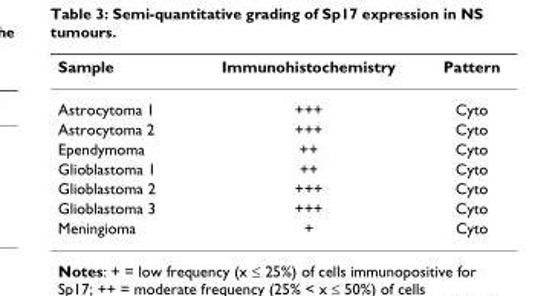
<table><thead><tr><td>Sample</td><td>Immunohistochemistry</td><td>Pattern</td></tr></thead><tbody><tr><td>Astrocytoma 1</td><td>+++</td><td>Cyto</td></tr><tr><td>Astrocytoma 2</td><td>+++</td><td>Cyto</td></tr><tr><td>Ependymoma</td><td>++</td><td>Cyto</td></tr><tr><td>Glioblastoma 1</td><td>++</td><td>Cyto</td></tr><tr><td>Glioblastoma 2</td><td>+++</td><td>Cyto</td></tr><tr><td>Glioblastoma 3</td><td>+++</td><td>Cyto</td></tr><tr><td>Meningioma</td><td>+</td><td>Cyto</td></tr></tbody></table>